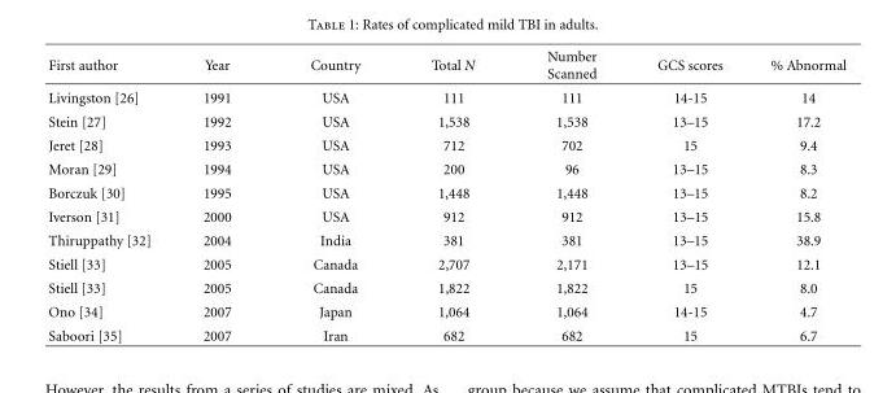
<table><thead><tr><td>First author</td><td>Year</td><td>Country</td><td>Total N</td><td>Number Scanned</td><td>GCS scores</td><td>% Abnormal</td></tr></thead><tbody><tr><td>Livingston [26]</td><td>1991</td><td>USA</td><td>111</td><td>111</td><td>14-15</td><td>14</td></tr><tr><td>Stein [27]</td><td>1992</td><td>USA</td><td>1,538</td><td>1,538</td><td>13–15</td><td>17.2</td></tr><tr><td>Jeret [28]</td><td>1993</td><td>USA</td><td>712</td><td>702</td><td>15</td><td>9.4</td></tr><tr><td>Moran [29]</td><td>1994</td><td>USA</td><td>200</td><td>96</td><td>13–15</td><td>8.3</td></tr><tr><td>Borczuk [30]</td><td>1995</td><td>USA</td><td>1,448</td><td>1,448</td><td>13–15</td><td>8.2</td></tr><tr><td>Iverson [31]</td><td>2000</td><td>USA</td><td>912</td><td>912</td><td>13–15</td><td>15.8</td></tr><tr><td>Thiruppathy [32]</td><td>2004</td><td>India</td><td>381</td><td>381</td><td>13–15</td><td>38.9</td></tr><tr><td>Stiell [33]</td><td>2005</td><td>Canada</td><td>2,707</td><td>2,171</td><td>13–15</td><td>12.1</td></tr><tr><td>Stiell [33]</td><td>2005</td><td>Canada</td><td>1,822</td><td>1,822</td><td>15</td><td>8.0</td></tr><tr><td>Ono [34]</td><td>2007</td><td>Japan</td><td>1,064</td><td>1,064</td><td>14-15</td><td>4.7</td></tr><tr><td>Saboori [35]</td><td>2007</td><td>Iran</td><td>682</td><td>682</td><td>15</td><td>6.7</td></tr></tbody></table>